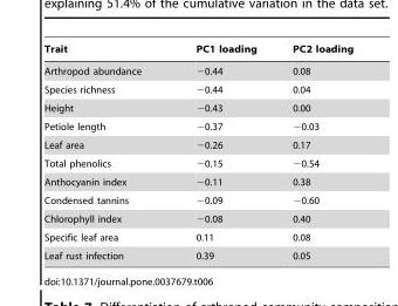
<table><thead><tr><td>Trait</td><td>PC1 loading</td><td>PC2 loading</td></tr></thead><tbody><tr><td>Arthropod abundance</td><td>−0.44</td><td>0.08</td></tr><tr><td>Species richness</td><td>−0.44</td><td>0.04</td></tr><tr><td>Height</td><td>−0.43</td><td>0.00</td></tr><tr><td>Petiole length</td><td>−0.37</td><td>−0.03</td></tr><tr><td>Leaf area</td><td>−0.26</td><td>0.17</td></tr><tr><td>Total phenolics</td><td>−0.15</td><td>−0.54</td></tr><tr><td>Anthocyanin index</td><td>−0.11</td><td>0.38</td></tr><tr><td>Condensed tannins</td><td>−0.09</td><td>−0.60</td></tr><tr><td>Chlorophyll index</td><td>−0.08</td><td>0.40</td></tr><tr><td>Specific leaf area</td><td>0.11</td><td>0.08</td></tr><tr><td>Leaf rust infection</td><td>0.39</td><td>0.05</td></tr></tbody></table>